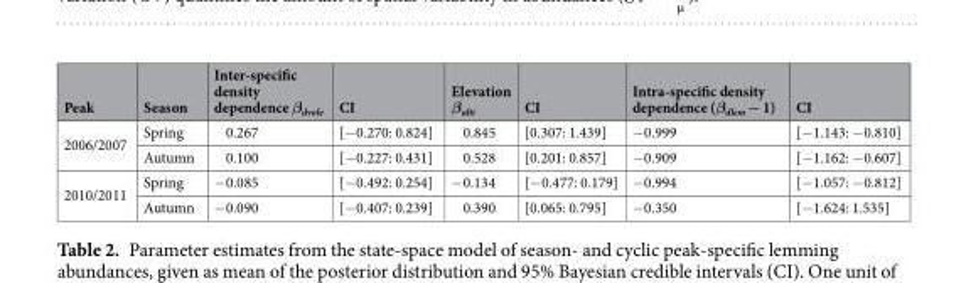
<table><thead><tr><td>Peak</td><td>Season</td><td>Inter-specific density dependence β<sub>dvole</sub></td><td>CI</td><td>Elevation β<sub>alti</sub></td><td>CI</td><td>Intra-specific density dependence (β<sub>dlem</sub> − 1)</td><td>CI</td></tr></thead><tbody><tr><td rowspan="2">2006/2007</td><td>Spring</td><td>0.267</td><td>[−0.270: 0.824]</td><td>0.845</td><td>[0.307: 1.439]</td><td>−0.999</td><td>[−1.143: −0.810]</td></tr><tr><td>Autumn</td><td>0.100</td><td>[−0.227: 0.431]</td><td>0.528</td><td>[0.201: 0.857]</td><td>−0.909</td><td>[−1.162: −0.607]</td></tr><tr><td rowspan="2">2010/2011</td><td>Spring</td><td>−0.085</td><td>[−0.492: 0.254]</td><td>−0.134</td><td>[−0.477: 0.179]</td><td>−0.994</td><td>[−1.057: −0.812]</td></tr><tr><td>Autumn</td><td>−0.090</td><td>[−0.407: 0.239]</td><td>0.390</td><td>[0.065: 0.795]</td><td>−0.350</td><td>[−1.624: 1.535]</td></tr></tbody></table>